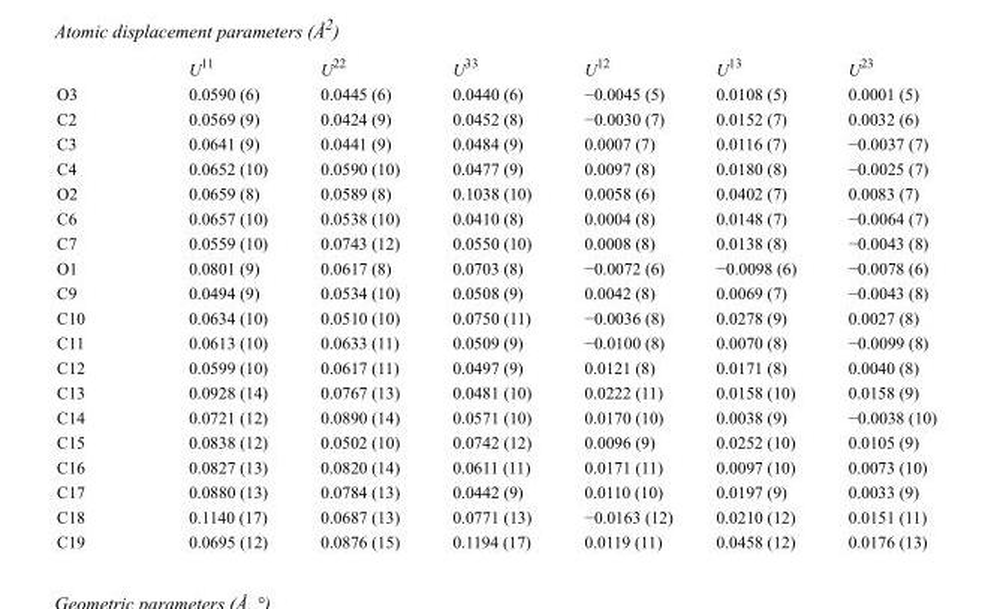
<table><thead><tr><td></td><td>U<sup>11</sup></td><td>U<sup>22</sup></td><td>U<sup>33</sup></td><td>U<sup>12</sup></td><td>U<sup>13</sup></td><td>U<sup>23</sup></td></tr></thead><tbody><tr><td>O3</td><td>0.0590 (6)</td><td>0.0445 (6)</td><td>0.0440 (6)</td><td>−0.0045 (5)</td><td>0.0108 (5)</td><td>0.0001 (5)</td></tr><tr><td>C2</td><td>0.0569 (9)</td><td>0.0424 (9)</td><td>0.0452 (8)</td><td>−0.0030 (7)</td><td>0.0152 (7)</td><td>0.0032 (6)</td></tr><tr><td>C3</td><td>0.0641 (9)</td><td>0.0441 (9)</td><td>0.0484 (9)</td><td>0.0007 (7)</td><td>0.0116 (7)</td><td>−0.0037 (7)</td></tr><tr><td>C4</td><td>0.0652 (10)</td><td>0.0590 (10)</td><td>0.0477 (9)</td><td>0.0097 (8)</td><td>0.0180 (8)</td><td>−0.0025 (7)</td></tr><tr><td>O2</td><td>0.0659 (8)</td><td>0.0589 (8)</td><td>0.1038 (10)</td><td>0.0058 (6)</td><td>0.0402 (7)</td><td>0.0083 (7)</td></tr><tr><td>C6</td><td>0.0657 (10)</td><td>0.0538 (10)</td><td>0.0410 (8)</td><td>0.0004 (8)</td><td>0.0148 (7)</td><td>−0.0064 (7)</td></tr><tr><td>C7</td><td>0.0559 (10)</td><td>0.0743 (12)</td><td>0.0550 (10)</td><td>0.0008 (8)</td><td>0.0138 (8)</td><td>−0.0043 (8)</td></tr><tr><td>O1</td><td>0.0801 (9)</td><td>0.0617 (8)</td><td>0.0703 (8)</td><td>−0.0072 (6)</td><td>−0.0098 (6)</td><td>−0.0078 (6)</td></tr><tr><td>C9</td><td>0.0494 (9)</td><td>0.0534 (10)</td><td>0.0508 (9)</td><td>0.0042 (8)</td><td>0.0069 (7)</td><td>−0.0043 (8)</td></tr><tr><td>C10</td><td>0.0634 (10)</td><td>0.0510 (10)</td><td>0.0750 (11)</td><td>−0.0036 (8)</td><td>0.0278 (9)</td><td>0.0027 (8)</td></tr><tr><td>C11</td><td>0.0613 (10)</td><td>0.0633 (11)</td><td>0.0509 (9)</td><td>−0.0100 (8)</td><td>0.0070 (8)</td><td>−0.0099 (8)</td></tr><tr><td>C12</td><td>0.0599 (10)</td><td>0.0617 (11)</td><td>0.0497 (9)</td><td>0.0121 (8)</td><td>0.0171 (8)</td><td>0.0040 (8)</td></tr><tr><td>C13</td><td>0.0928 (14)</td><td>0.0767 (13)</td><td>0.0481 (10)</td><td>0.0222 (11)</td><td>0.0158 (10)</td><td>0.0158 (9)</td></tr><tr><td>C14</td><td>0.0721 (12)</td><td>0.0890 (14)</td><td>0.0571 (10)</td><td>0.0170 (10)</td><td>0.0038 (9)</td><td>−0.0038 (10)</td></tr><tr><td>C15</td><td>0.0838 (12)</td><td>0.0502 (10)</td><td>0.0742 (12)</td><td>0.0096 (9)</td><td>0.0252 (10)</td><td>0.0105 (9)</td></tr><tr><td>C16</td><td>0.0827 (13)</td><td>0.0820 (14)</td><td>0.0611 (11)</td><td>0.0171 (11)</td><td>0.0097 (10)</td><td>0.0073 (10)</td></tr><tr><td>C17</td><td>0.0880 (13)</td><td>0.0784 (13)</td><td>0.0442 (9)</td><td>0.0110 (10)</td><td>0.0197 (9)</td><td>0.0033 (9)</td></tr><tr><td>C18</td><td>0.1140 (17)</td><td>0.0687 (13)</td><td>0.0771 (13)</td><td>−0.0163 (12)</td><td>0.0210 (12)</td><td>0.0151 (11)</td></tr><tr><td>C19</td><td>0.0695 (12)</td><td>0.0876 (15)</td><td>0.1194 (17)</td><td>0.0119 (11)</td><td>0.0458 (12)</td><td>0.0176 (13)</td></tr></tbody></table>